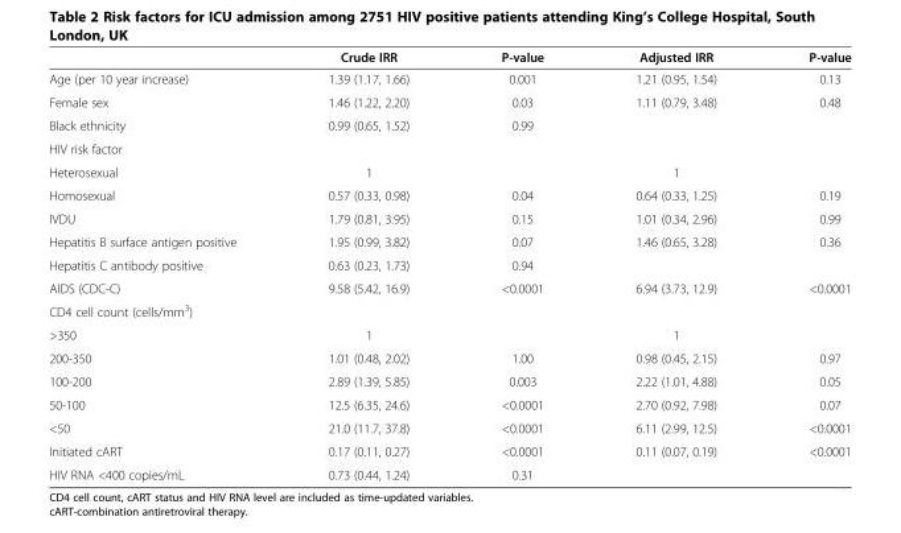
<table><thead><tr><td></td><td>Crude IRR</td><td>P-value</td><td>Adjusted IRR</td><td>P-value</td></tr></thead><tbody><tr><td>Age (per 10 year increase)</td><td>1.39 (1.17, 1.66)</td><td>0.001</td><td>1.21 (0.95, 1.54)</td><td>0.13</td></tr><tr><td>Female sex</td><td>1.46 (1.22, 2.20)</td><td>0.03</td><td>1.11 (0.79, 3.48)</td><td>0.48</td></tr><tr><td>Black ethnicity</td><td>0.99 (0.65, 1.52)</td><td>0.99</td><td></td><td></td></tr><tr><td colspan="5">HIV risk factor</td></tr><tr><td>Heterosexual</td><td>1</td><td></td><td>1</td><td></td></tr><tr><td>Homosexual</td><td>0.57 (0.33, 0.98)</td><td>0.04</td><td>0.64 (0.33, 1.25)</td><td>0.19</td></tr><tr><td>IVDU</td><td>1.79 (0.81, 3.95)</td><td>0.15</td><td>1.01 (0.34, 2.96)</td><td>0.99</td></tr><tr><td>Hepatitis B surface antigen positive</td><td>1.95 (0.99, 3.82)</td><td>0.07</td><td>1.46 (0.65, 3.28)</td><td>0.36</td></tr><tr><td>Hepatitis C antibody positive</td><td>0.63 (0.23, 1.73)</td><td>0.94</td><td></td><td></td></tr><tr><td>AIDS (CDC-C)</td><td>9.58 (5.42, 16.9)</td><td>&lt;0.0001</td><td>6.94 (3.73, 12.9)</td><td>&lt;0.0001</td></tr><tr><td colspan="5">CD4 cell count (cells/mm<sup>3</sup>)</td></tr><tr><td>&gt;350</td><td>1</td><td></td><td>1</td><td></td></tr><tr><td>200-350</td><td>1.01 (0.48, 2.02)</td><td>1.00</td><td>0.98 (0.45, 2.15)</td><td>0.97</td></tr><tr><td>100-200</td><td>2.89 (1.39, 5.85)</td><td>0.003</td><td>2.22 (1.01, 4.88)</td><td>0.05</td></tr><tr><td>50-100</td><td>12.5 (6.35, 24.6)</td><td>&lt;0.0001</td><td>2.70 (0.92, 7.98)</td><td>0.07</td></tr><tr><td>&lt;50</td><td>21.0 (11.7, 37.8)</td><td>&lt;0.0001</td><td>6.11 (2.99, 12.5)</td><td>&lt;0.0001</td></tr><tr><td>Initiated cART</td><td>0.17 (0.11, 0.27)</td><td>&lt;0.0001</td><td>0.11 (0.07, 0.19)</td><td>&lt;0.0001</td></tr><tr><td>HIV RNA &lt;400 copies/mL</td><td>0.73 (0.44, 1.24)</td><td>0.31</td><td></td><td></td></tr></tbody></table>